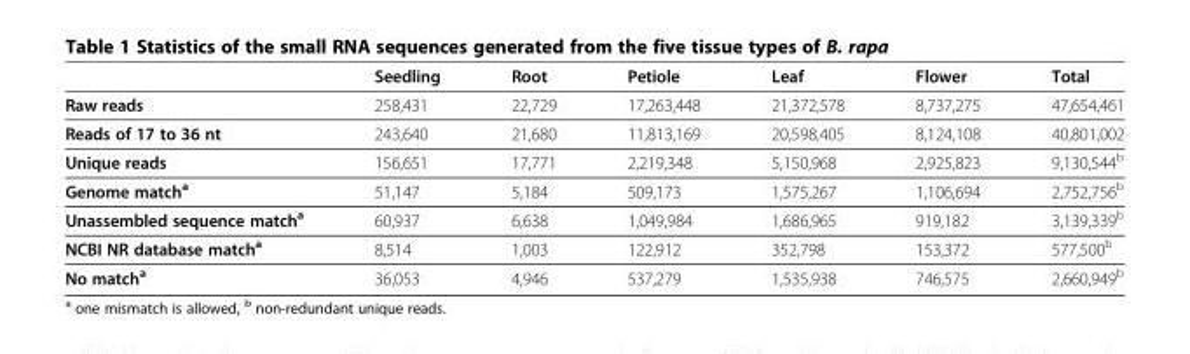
<table><thead><tr><td></td><td>Seedling</td><td>Root</td><td>Petiole</td><td>Leaf</td><td>Flower</td><td>Total</td></tr></thead><tbody><tr><td>Raw reads</td><td>258,431</td><td>22,729</td><td>17,263,448</td><td>21,372,578</td><td>8,737,275</td><td>47,654,461</td></tr><tr><td>Reads of 17 to 36 nt</td><td>243,640</td><td>21,680</td><td>11,813,169</td><td>20,598,405</td><td>8,124,108</td><td>40,801,002</td></tr><tr><td>Unique reads</td><td>156,651</td><td>17,771</td><td>2,219,348</td><td>5,150,968</td><td>2,925,823</td><td>9,130,544<sup>b</sup></td></tr><tr><td>Genome match<sup>a</sup></td><td>51,147</td><td>5,184</td><td>509,173</td><td>1,575,267</td><td>1,106,694</td><td>2,752,756<sup>b</sup></td></tr><tr><td>Unassembled sequence match<sup>a</sup></td><td>60,937</td><td>6,638</td><td>1,049,984</td><td>1,686,965</td><td>919,182</td><td>3,139,339<sup>b</sup></td></tr><tr><td>NCBI NR database match<sup>a</sup></td><td>8,514</td><td>1,003</td><td>122,912</td><td>352,798</td><td>153,372</td><td>577,500<sup>b</sup></td></tr><tr><td>No match<sup>a</sup></td><td>36,053</td><td>4,946</td><td>537,279</td><td>1,535,938</td><td>746,575</td><td>2,660,949<sup>b</sup></td></tr></tbody></table>